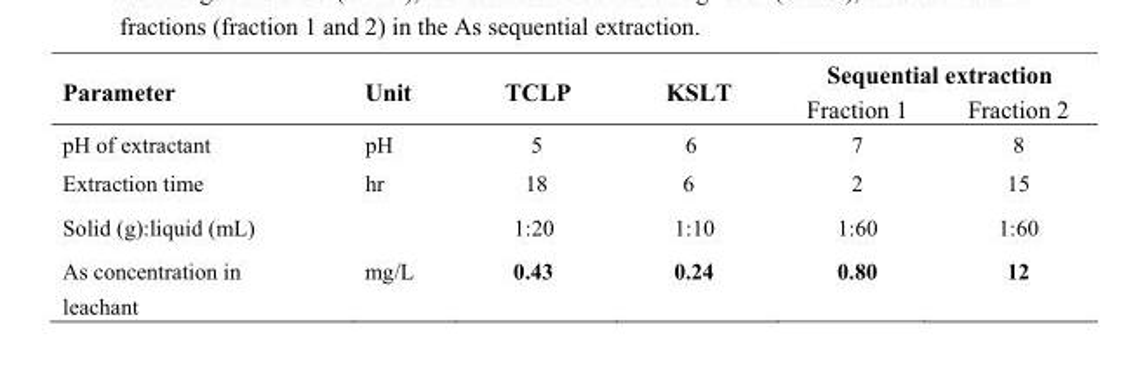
<table><thead><tr><td rowspan="2">Parameter</td><td rowspan="2">Unit</td><td rowspan="2">TCLP</td><td rowspan="2">KSLT</td><td colspan="2">Sequential extraction</td></tr><tr><td>Fraction 1</td><td>Fraction 2</td></tr></thead><tbody><tr><td>pH of extractant</td><td>pH</td><td>5</td><td>6</td><td>7</td><td>8</td></tr><tr><td>Extraction time</td><td>hr</td><td>18</td><td>6</td><td>2</td><td>15</td></tr><tr><td>Solid (g):liquid (mL)</td><td></td><td>1:20</td><td>1:10</td><td>1:60</td><td>1:60</td></tr><tr><td>As concentration in leachant</td><td>mg/L</td><td>0.43</td><td>0.24</td><td>0.80</td><td>12</td></tr></tbody></table>